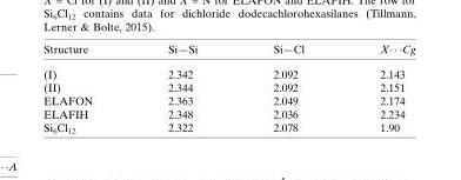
<table><thead><tr><td>Structure</td><td>Si—Si</td><td>Si—Cl</td><td>X� � �Cg</td></tr></thead><tbody><tr><td>(I)</td><td>2.342</td><td>2.092</td><td>2.143</td></tr><tr><td>(II)</td><td>2.344</td><td>2.092</td><td>2.151</td></tr><tr><td>ELAFON</td><td>2.363</td><td>2.049</td><td>2.174</td></tr><tr><td>ELAFIH</td><td>2.348</td><td>2.036</td><td>2.234</td></tr><tr><td>Si<sub>6</sub>Cl<sub>12</sub></td><td>2.322</td><td>2.078</td><td>1.90</td></tr></tbody></table>